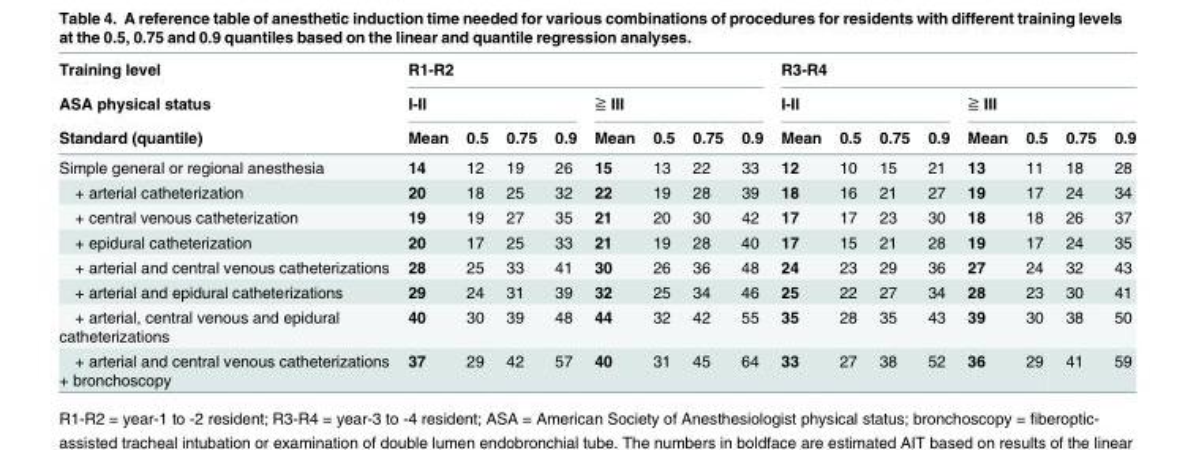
<table><thead><tr><td rowspan="3">Training level ASA physical status Standard (quantile)</td><td colspan="8">R1-R2</td><td colspan="8">R3-R4</td></tr><tr><td colspan="4">I-II</td><td colspan="4">≧ III</td><td colspan="4">I-II</td><td colspan="4">≧ III</td></tr><tr><td>Mean</td><td>0.5</td><td>0.75</td><td>0.9</td><td>Mean</td><td>0.5</td><td>0.75</td><td>0.9</td><td>Mean</td><td>0.5</td><td>0.75</td><td>0.9</td><td>Mean</td><td>0.5</td><td>0.75</td><td>0.9</td></tr></thead><tbody><tr><td>Simple general or regional anesthesia</td><td>14</td><td>12</td><td>19</td><td>26</td><td>15</td><td>13</td><td>22</td><td>33</td><td>12</td><td>10</td><td>15</td><td>21</td><td>13</td><td>11</td><td>18</td><td>28</td></tr><tr><td>+ arterial catheterization</td><td>20</td><td>18</td><td>25</td><td>32</td><td>22</td><td>19</td><td>28</td><td>39</td><td>18</td><td>16</td><td>21</td><td>27</td><td>19</td><td>17</td><td>24</td><td>34</td></tr><tr><td>+ central venous catheterization</td><td>19</td><td>19</td><td>27</td><td>35</td><td>21</td><td>20</td><td>30</td><td>42</td><td>17</td><td>17</td><td>23</td><td>30</td><td>18</td><td>18</td><td>26</td><td>37</td></tr><tr><td>+ epidural catheterization</td><td>20</td><td>17</td><td>25</td><td>33</td><td>21</td><td>19</td><td>28</td><td>40</td><td>17</td><td>15</td><td>21</td><td>28</td><td>19</td><td>17</td><td>24</td><td>35</td></tr><tr><td>+ arterial and central venous catheterizations</td><td>28</td><td>25</td><td>33</td><td>41</td><td>30</td><td>26</td><td>36</td><td>48</td><td>24</td><td>23</td><td>29</td><td>36</td><td>27</td><td>24</td><td>32</td><td>43</td></tr><tr><td>+ arterial and epidural catheterizations</td><td>29</td><td>24</td><td>31</td><td>39</td><td>32</td><td>25</td><td>34</td><td>46</td><td>25</td><td>22</td><td>27</td><td>34</td><td>28</td><td>23</td><td>30</td><td>41</td></tr><tr><td>+ arterial, central venous and epidural catheterizations</td><td>40</td><td>30</td><td>39</td><td>48</td><td>44</td><td>32</td><td>42</td><td>55</td><td>35</td><td>28</td><td>35</td><td>43</td><td>39</td><td>30</td><td>38</td><td>50</td></tr><tr><td>+ arterial and central venous catheterizations + bronchoscopy</td><td>37</td><td>29</td><td>42</td><td>57</td><td>40</td><td>31</td><td>45</td><td>64</td><td>33</td><td>27</td><td>38</td><td>52</td><td>36</td><td>29</td><td>41</td><td>59</td></tr></tbody></table>